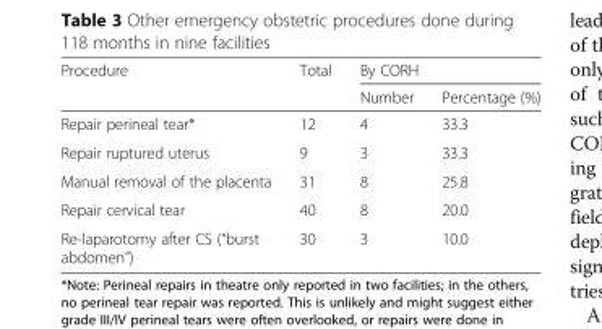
<table><thead><tr><td rowspan="2">Procedure</td><td rowspan="2">Total</td><td colspan="2">By CORH</td></tr><tr><td>Number</td><td>Percentage (%)</td></tr></thead><tbody><tr><td>Repair perineal tear*</td><td>12</td><td>4</td><td>33.3</td></tr><tr><td>Repair ruptured uterus</td><td>9</td><td>3</td><td>33.3</td></tr><tr><td>Manual removal of the placenta</td><td>31</td><td>8</td><td>25.8</td></tr><tr><td>Repair cervical tear</td><td>40</td><td>8</td><td>20.0</td></tr><tr><td>Re-laparotomy after CS (“burst abdomen”)</td><td>30</td><td>3</td><td>10.0</td></tr></tbody></table>